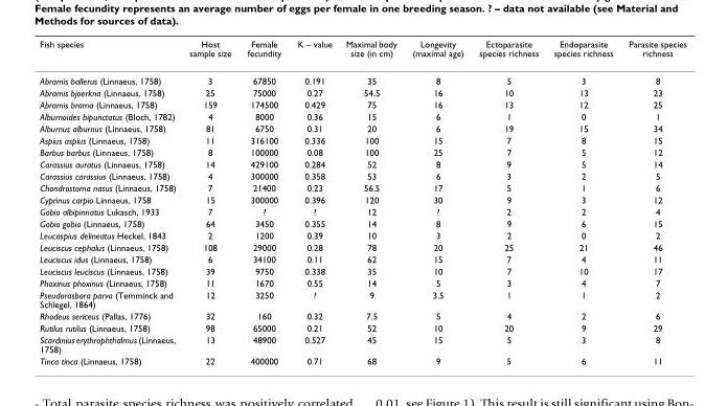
<table><thead><tr><td>Fish species</td><td>Host sample size</td><td>Female fecundity</td><td>K – value</td><td>Maximal body size (in cm)</td><td>Longevity (maximal age)</td><td>Ectoparasite species richness</td><td>Endoparasite species richness</td><td>Parasite species richness</td></tr></thead><tbody><tr><td>Abramis ballerus (Linnaeus, 1758)</td><td>3</td><td>67850</td><td>0.191</td><td>35</td><td>8</td><td>5</td><td>3</td><td>8</td></tr><tr><td>Abramis bjoerkna (Linnaeus, 1758)</td><td>25</td><td>75000</td><td>0.27</td><td>54.5</td><td>16</td><td>10</td><td>13</td><td>23</td></tr><tr><td>Abramis brama (Linnaeus, 1758)</td><td>159</td><td>174500</td><td>0.429</td><td>75</td><td>16</td><td>13</td><td>12</td><td>25</td></tr><tr><td>Alburnoides bipunctatus (Bloch, 1782)</td><td>4</td><td>8000</td><td>0.36</td><td>15</td><td>6</td><td>1</td><td>0</td><td>1</td></tr><tr><td>Alburnus alburnus (Linnaeus, 1758)</td><td>81</td><td>6750</td><td>0.31</td><td>20</td><td>6</td><td>19</td><td>15</td><td>34</td></tr><tr><td>Aspius aspius (Linnaeus, 1758)</td><td>11</td><td>316100</td><td>0.336</td><td>100</td><td>15</td><td>7</td><td>8</td><td>15</td></tr><tr><td>Barbus barbus (Linnaeus, 1758)</td><td>8</td><td>100000</td><td>0.08</td><td>100</td><td>25</td><td>7</td><td>5</td><td>12</td></tr><tr><td>Carassius auratus (Linnaeus, 1758)</td><td>14</td><td>429100</td><td>0.284</td><td>52</td><td>8</td><td>9</td><td>5</td><td>14</td></tr><tr><td>Carassius carassius (Linnaeus, 1758)</td><td>4</td><td>300000</td><td>0.358</td><td>53</td><td>6</td><td>3</td><td>2</td><td>5</td></tr><tr><td>Chondrostoma nasus (Linnaeus, 1758)</td><td>7</td><td>21400</td><td>0.23</td><td>56.5</td><td>17</td><td>5</td><td>1</td><td>6</td></tr><tr><td>Cyprinus carpio Linnaeus, 1758</td><td>15</td><td>300000</td><td>0.396</td><td>120</td><td>30</td><td>9</td><td>3</td><td>12</td></tr><tr><td>Gobio albipinnatus Lukasch, 1933</td><td>7</td><td>?</td><td>?</td><td>12</td><td>?</td><td>2</td><td>2</td><td>4</td></tr><tr><td>Gobio gobio (Linnaeus, 1758)</td><td>64</td><td>3450</td><td>0.355</td><td>14</td><td>8</td><td>9</td><td>6</td><td>15</td></tr><tr><td>Leucaspius delineatus Heckel, 1843</td><td>2</td><td>1200</td><td>0.39</td><td>10</td><td>3</td><td>2</td><td>0</td><td>2</td></tr><tr><td>Leuciscus cephalus (Linnaeus, 1758)</td><td>108</td><td>29000</td><td>0.28</td><td>78</td><td>20</td><td>25</td><td>21</td><td>46</td></tr><tr><td>Leuciscus idus (Linnaeus, 1758)</td><td>6</td><td>34100</td><td>0.11</td><td>62</td><td>15</td><td>7</td><td>4</td><td>11</td></tr><tr><td>Leuciscus leuciscus (Linnaeus, 1758)</td><td>39</td><td>9750</td><td>0.338</td><td>35</td><td>10</td><td>7</td><td>10</td><td>17</td></tr><tr><td>Phoxinus phoxinus (Linnaeus, 1758)</td><td>11</td><td>1670</td><td>0.55</td><td>14</td><td>5</td><td>3</td><td>4</td><td>7</td></tr><tr><td>Pseudorasbora parva (Temminck and Schlegel, 1864)</td><td>12</td><td>3250</td><td>?</td><td>9</td><td>3.5</td><td>1</td><td>1</td><td>2</td></tr><tr><td>Rhodeus sericeus (Pallas, 1776)</td><td>32</td><td>160</td><td>0.32</td><td>7.5</td><td>5</td><td>4</td><td>2</td><td>6</td></tr><tr><td>Rutilus rutilus (Linnaeus, 1758)</td><td>98</td><td>65000</td><td>0.21</td><td>52</td><td>10</td><td>20</td><td>9</td><td>29</td></tr><tr><td>Scardinius erythrophthalmus (Linnaeus, 1758)</td><td>13</td><td>48900</td><td>0.527</td><td>45</td><td>15</td><td>5</td><td>3</td><td>8</td></tr><tr><td>Tinca tinca (Linnaeus, 1758)</td><td>22</td><td>400000</td><td>0.71</td><td>68</td><td>9</td><td>5</td><td>6</td><td>11</td></tr></tbody></table>